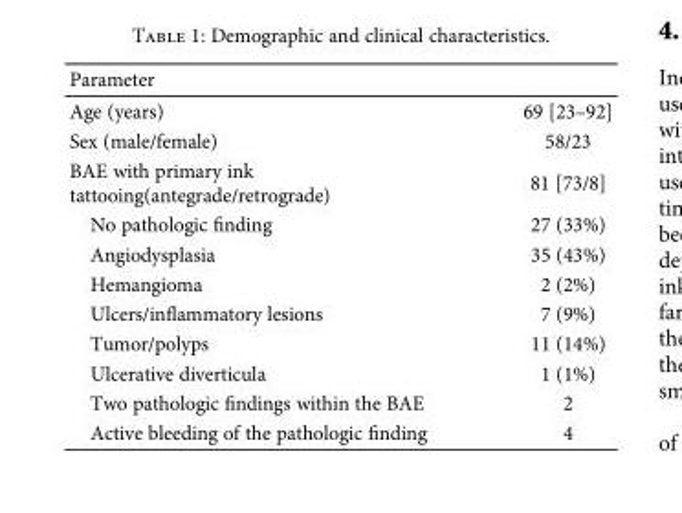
<table><thead><tr><td colspan="2">Parameter</td></tr><tr><td>Age (years)</td><td>69 [23–92]</td></tr></thead><tbody><tr><td>Sex (male/female)</td><td>58/23</td></tr><tr><td>BAE with primary ink tattooing(antegrade/retrograde)</td><td>81 [73/8]</td></tr><tr><td>No pathologic finding</td><td>27 (33%)</td></tr><tr><td>Angiodysplasia</td><td>35 (43%)</td></tr><tr><td>Hemangioma</td><td>2 (2%)</td></tr><tr><td>Ulcers/inflammatory lesions</td><td>7 (9%)</td></tr><tr><td>Tumor/polyps</td><td>11 (14%)</td></tr><tr><td>Ulcerative diverticula</td><td>1 (1%)</td></tr><tr><td>Two pathologic findings within the BAE</td><td>2</td></tr><tr><td>Active bleeding of the pathologic finding</td><td>4</td></tr></tbody></table>